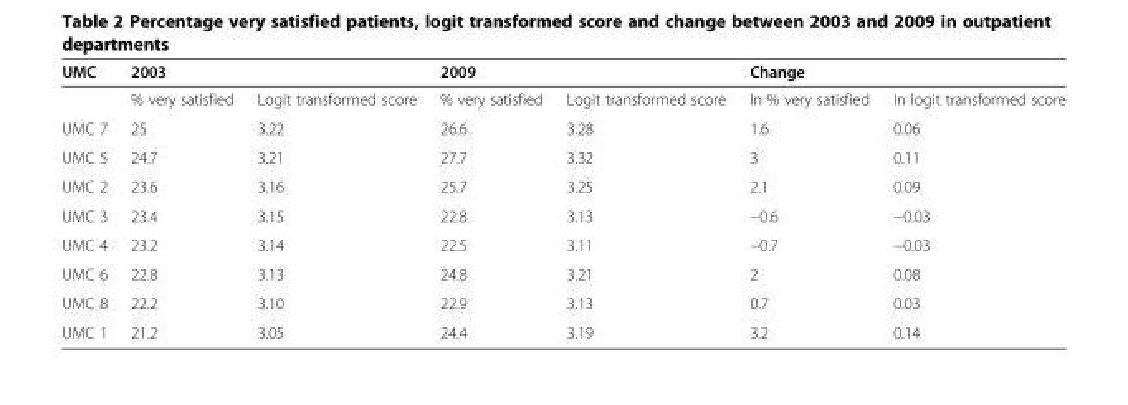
<table><thead><tr><td rowspan="2">UMC</td><td colspan="2">2003</td><td colspan="2">2009</td><td colspan="2">Change</td></tr><tr><td>% very satisfied</td><td>Logit transformed score</td><td>% very satisfied</td><td>Logit transformed score</td><td>In % very satisfied</td><td>In logit transformed score</td></tr></thead><tbody><tr><td>UMC 7</td><td>25</td><td>3.22</td><td>26.6</td><td>3.28</td><td>1.6</td><td>0.06</td></tr><tr><td>UMC 5</td><td>24.7</td><td>3.21</td><td>27.7</td><td>3.32</td><td>3</td><td>0.11</td></tr><tr><td>UMC 2</td><td>23.6</td><td>3.16</td><td>25.7</td><td>3.25</td><td>2.1</td><td>0.09</td></tr><tr><td>UMC 3</td><td>23.4</td><td>3.15</td><td>22.8</td><td>3.13</td><td>−0.6</td><td>−0.03</td></tr><tr><td>UMC 4</td><td>23.2</td><td>3.14</td><td>22.5</td><td>3.11</td><td>−0.7</td><td>−0.03</td></tr><tr><td>UMC 6</td><td>22.8</td><td>3.13</td><td>24.8</td><td>3.21</td><td>2</td><td>0.08</td></tr><tr><td>UMC 8</td><td>22.2</td><td>3.10</td><td>22.9</td><td>3.13</td><td>0.7</td><td>0.03</td></tr><tr><td>UMC 1</td><td>21.2</td><td>3.05</td><td>24.4</td><td>3.19</td><td>3.2</td><td>0.14</td></tr></tbody></table>